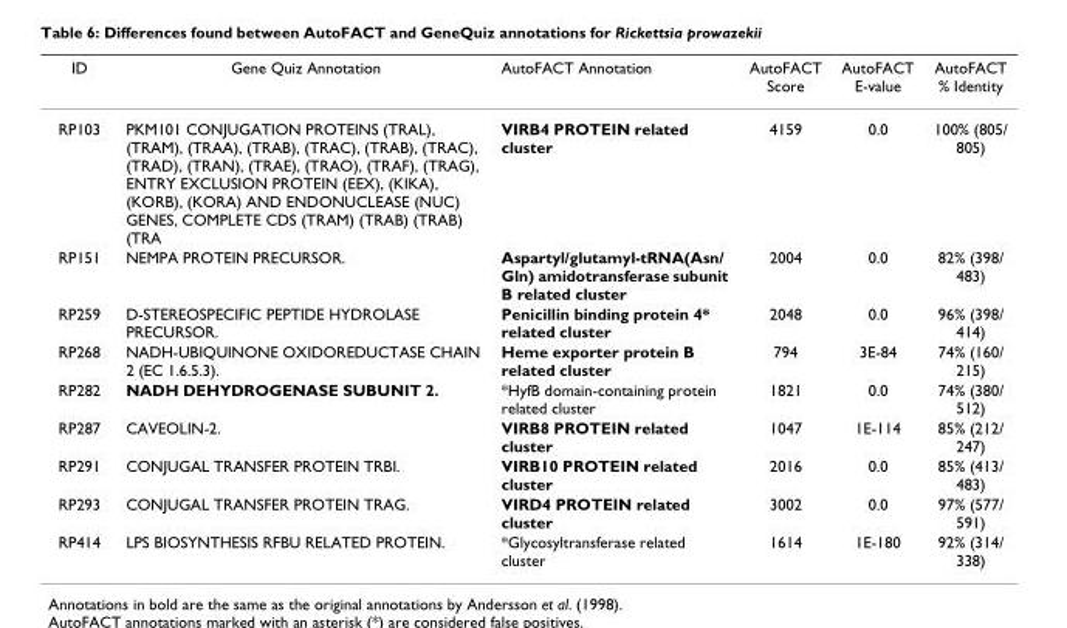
<table><thead><tr><td>ID</td><td>Gene Quiz Annotation</td><td>AutoFACT Annotation</td><td>AutoFACT Score</td><td>AutoFACT E-value</td><td>AutoFACT % Identity</td></tr></thead><tbody><tr><td>RP103</td><td>PKM101 CONJUGATION PROTEINS (TRAL), (TRAM), (TRAA), (TRAB), (TRAC), (TRAB), (TRAC), (TRAD), (TRAN), (TRAE), (TRAO), (TRAF), (TRAG), ENTRY EXCLUSION PROTEIN (EEX), (KIKA), (KORB), (KORA) AND ENDONUCLEASE (NUC) GENES, COMPLETE CDS (TRAM) (TRAB) (TRAB) (TRA</td><td>VIRB4 PROTEIN related cluster</td><td>4159</td><td>0.0</td><td>100% (805/ 805)</td></tr><tr><td>RP151</td><td>NEMPA PROTEIN PRECURSOR.</td><td>Aspartyl/glutamyl-tRNA(Asn/ Gln) amidotransferase subunit B related cluster</td><td>2004</td><td>0.0</td><td>82% (398/ 483)</td></tr><tr><td>RP259</td><td>D-STEREOSPECIFIC PEPTIDE HYDROLASE PRECURSOR.</td><td>Penicillin binding protein 4* related cluster</td><td>2048</td><td>0.0</td><td>96% (398/ 414)</td></tr><tr><td>RP268</td><td>NADH-UBIQUINONE OXIDOREDUCTASE CHAIN 2 (EC 1.6.5.3).</td><td>Heme exporter protein B related cluster</td><td>794</td><td>3E-84</td><td>74% (160/ 215)</td></tr><tr><td>RP282</td><td>NADH DEHYDROGENASE SUBUNIT 2.</td><td>*HyfB domain-containing protein related cluster</td><td>1821</td><td>0.0</td><td>74% (380/ 512)</td></tr><tr><td>RP287</td><td>CAVEOLIN-2.</td><td>VIRB8 PROTEIN related cluster</td><td>1047</td><td>1E-114</td><td>85% (212/ 247)</td></tr><tr><td>RP291</td><td>CONJUGAL TRANSFER PROTEIN TRBI.</td><td>VIRB10 PROTEIN related cluster</td><td>2016</td><td>0.0</td><td>85% (413/ 483)</td></tr><tr><td>RP293</td><td>CONJUGAL TRANSFER PROTEIN TRAG.</td><td>VIRD4 PROTEIN related cluster</td><td>3002</td><td>0.0</td><td>97% (577/ 591)</td></tr><tr><td>RP414</td><td>LPS BIOSYNTHESIS RFBU RELATED PROTEIN.</td><td>*Glycosyltransferase related cluster</td><td>1614</td><td>1E-180</td><td>92% (314/ 338)</td></tr></tbody></table>